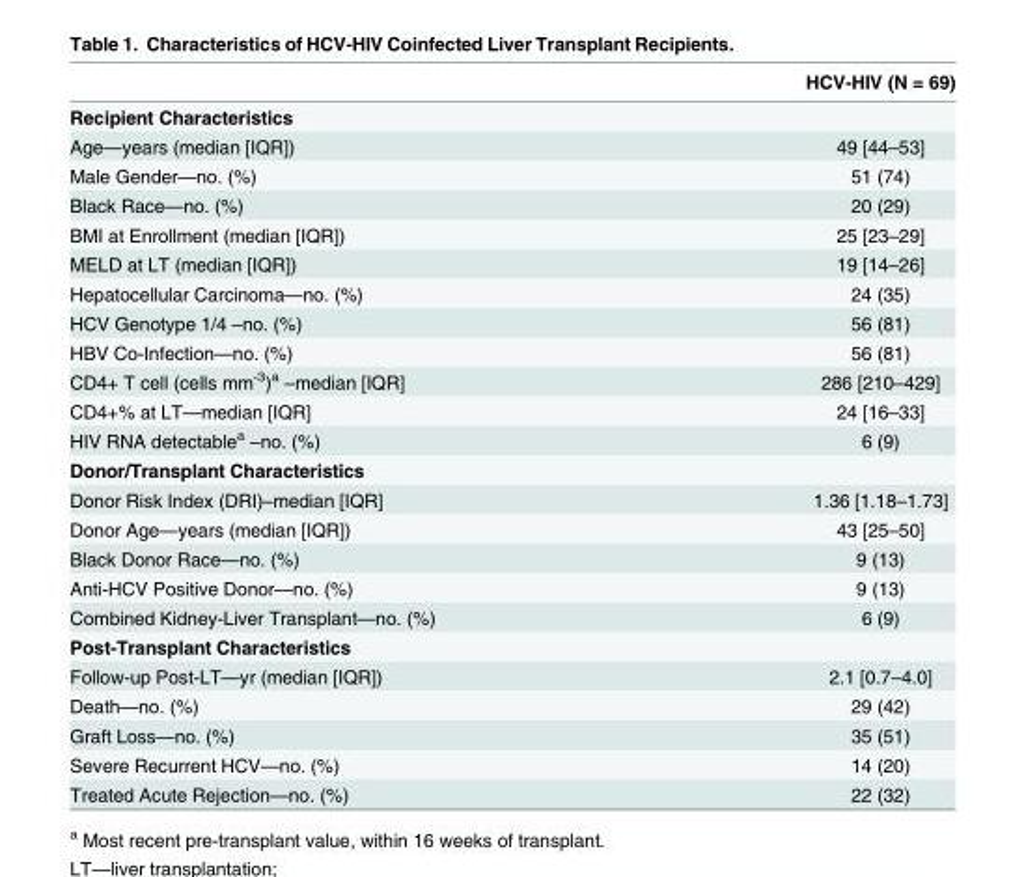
<table><thead><tr><td></td><td>HCV-HIV (N = 69)</td></tr></thead><tbody><tr><td colspan="2">Recipient Characteristics</td></tr><tr><td>Age—years (median [IQR])</td><td>49 [44–53]</td></tr><tr><td>Male Gender—no. (%)</td><td>51 (74)</td></tr><tr><td>Black Race—no. (%)</td><td>20 (29)</td></tr><tr><td>BMI at Enrollment (median [IQR])</td><td>25 [23–29]</td></tr><tr><td>MELD at LT (median [IQR])</td><td>19 [14–26]</td></tr><tr><td>Hepatocellular Carcinoma—no. (%)</td><td>24 (35)</td></tr><tr><td>HCV Genotype 1/4 –no. (%)</td><td>56 (81)</td></tr><tr><td>HBV Co-Infection—no. (%)</td><td>56 (81)</td></tr><tr><td>CD4+ T cell (cells mm<sup>-3</sup>)<sup>a</sup> –median [IQR]</td><td>286 [210–429]</td></tr><tr><td>CD4+% at LT—median [IQR]</td><td>24 [16–33]</td></tr><tr><td>HIV RNA detectable<sup>a</sup> –no. (%)</td><td>6 (9)</td></tr><tr><td colspan="2">Donor/Transplant Characteristics</td></tr><tr><td>Donor Risk Index (DRI)–median [IQR]</td><td>1.36 [1.18–1.73]</td></tr><tr><td>Donor Age—years (median [IQR])</td><td>43 [25–50]</td></tr><tr><td>Black Donor Race—no. (%)</td><td>9 (13)</td></tr><tr><td>Anti-HCV Positive Donor—no. (%)</td><td>9 (13)</td></tr><tr><td>Combined Kidney-Liver Transplant—no. (%)</td><td>6 (9)</td></tr><tr><td colspan="2">Post-Transplant Characteristics</td></tr><tr><td>Follow-up Post-LT—yr (median [IQR])</td><td>2.1 [0.7–4.0]</td></tr><tr><td>Death—no. (%)</td><td>29 (42)</td></tr><tr><td>Graft Loss—no. (%)</td><td>35 (51)</td></tr><tr><td>Severe Recurrent HCV—no. (%)</td><td>14 (20)</td></tr><tr><td>Treated Acute Rejection—no. (%)</td><td>22 (32)</td></tr></tbody></table>